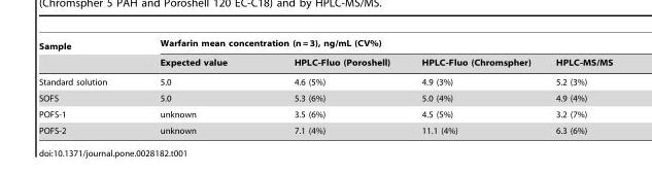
<table><thead><tr><td rowspan="2">Sample</td><td colspan="4">Warfarin mean concentration (n = 3), ng/mL (CV%)</td></tr><tr><td>Expected value</td><td>HPLC-Fluo (Poroshell)</td><td>HPLC-Fluo (Chromspher)</td><td>HPLC-MS/MS</td></tr></thead><tbody><tr><td>Standard solution</td><td>5.0</td><td>4.6 (5%)</td><td>4.9 (3%)</td><td>5.2 (3%)</td></tr><tr><td>SOFS</td><td>5.0</td><td>5.3 (6%)</td><td>5.0 (4%)</td><td>4.9 (4%)</td></tr><tr><td>POFS-1</td><td>unknown</td><td>3.5 (6%)</td><td>4.5 (5%)</td><td>3.2 (7%)</td></tr><tr><td>POFS-2</td><td>unknown</td><td>7.1 (4%)</td><td>11.1 (4%)</td><td>6.3 (6%)</td></tr></tbody></table>